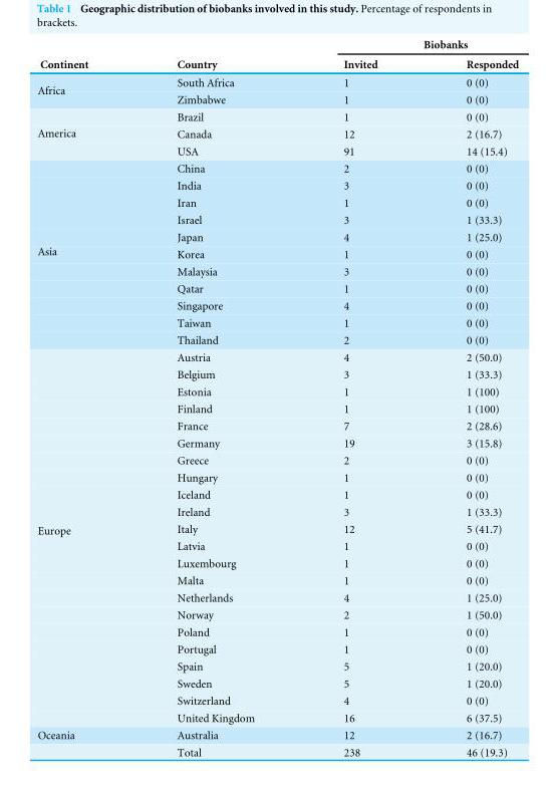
<table><thead><tr><td rowspan="2">Continent</td><td rowspan="2">Country</td><td colspan="2">Biobanks</td></tr><tr><td>Invited</td><td>Responded</td></tr></thead><tbody><tr><td rowspan="2">Africa</td><td>South Africa</td><td>1</td><td>0 (0)</td></tr><tr><td>Zimbabwe</td><td>1</td><td>0 (0)</td></tr><tr><td rowspan="3">America</td><td>Brazil</td><td>1</td><td>0 (0)</td></tr><tr><td>Canada</td><td>12</td><td>2 (16.7)</td></tr><tr><td>USA</td><td>91</td><td>14 (15.4)</td></tr><tr><td rowspan="11">Asia</td><td>China</td><td>2</td><td>0 (0)</td></tr><tr><td>India</td><td>3</td><td>0 (0)</td></tr><tr><td>Iran</td><td>1</td><td>0 (0)</td></tr><tr><td>Israel</td><td>3</td><td>1 (33.3)</td></tr><tr><td>Japan</td><td>4</td><td>1 (25.0)</td></tr><tr><td>Korea</td><td>1</td><td>0 (0)</td></tr><tr><td>Malaysia</td><td>3</td><td>0 (0)</td></tr><tr><td>Qatar</td><td>1</td><td>0 (0)</td></tr><tr><td>Singapore</td><td>4</td><td>0 (0)</td></tr><tr><td>Taiwan</td><td>1</td><td>0 (0)</td></tr><tr><td>Thailand</td><td>2</td><td>0 (0)</td></tr><tr><td rowspan="22">Europe</td><td>Austria</td><td>4</td><td>2 (50.0)</td></tr><tr><td>Belgium</td><td>3</td><td>1 (33.3)</td></tr><tr><td>Estonia</td><td>1</td><td>1 (100)</td></tr><tr><td>Finland</td><td>1</td><td>1 (100)</td></tr><tr><td>France</td><td>7</td><td>2 (28.6)</td></tr><tr><td>Germany</td><td>19</td><td>3 (15.8)</td></tr><tr><td>Greece</td><td>2</td><td>0 (0)</td></tr><tr><td>Hungary</td><td>1</td><td>0 (0)</td></tr><tr><td>Iceland</td><td>1</td><td>0 (0)</td></tr><tr><td>Ireland</td><td>3</td><td>1 (33.3)</td></tr><tr><td>Italy</td><td>12</td><td>5 (41.7)</td></tr><tr><td>Latvia</td><td>1</td><td>0 (0)</td></tr><tr><td>Luxembourg</td><td>1</td><td>0 (0)</td></tr><tr><td>Malta</td><td>1</td><td>0 (0)</td></tr><tr><td>Netherlands</td><td>4</td><td>1 (25.0)</td></tr><tr><td>Norway</td><td>2</td><td>1 (50.0)</td></tr><tr><td>Poland</td><td>1</td><td>0 (0)</td></tr><tr><td>Portugal</td><td>1</td><td>0 (0)</td></tr><tr><td>Spain</td><td>5</td><td>1 (20.0)</td></tr><tr><td>Sweden</td><td>5</td><td>1 (20.0)</td></tr><tr><td>Switzerland</td><td>4</td><td>0 (0)</td></tr><tr><td>United Kingdom</td><td>16</td><td>6 (37.5)</td></tr><tr><td rowspan="2">Oceania</td><td>Australia</td><td>12</td><td>2 (16.7)</td></tr><tr><td>Total</td><td>238</td><td>46 (19.3)</td></tr></tbody></table>